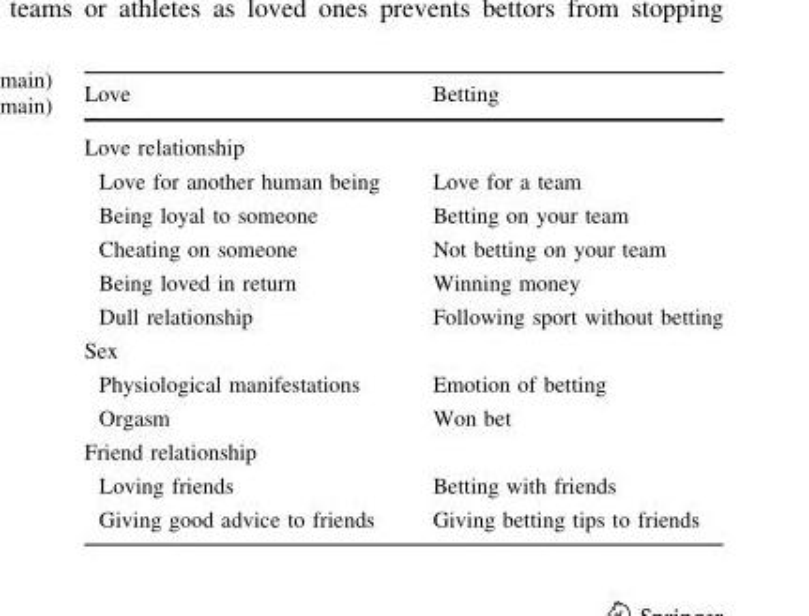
<table><thead><tr><td>Love</td><td>Betting</td></tr></thead><tbody><tr><td colspan="2">Love relationship</td></tr><tr><td>Love for another human being</td><td>Love for a team</td></tr><tr><td>Being loyal to someone</td><td>Betting on your team</td></tr><tr><td>Cheating on someone</td><td>Not betting on your team</td></tr><tr><td>Being loved in return</td><td>Winning money</td></tr><tr><td>Dull relationship</td><td>Following sport without betting</td></tr><tr><td colspan="2">Sex</td></tr><tr><td>Physiological manifestations</td><td>Emotion of betting</td></tr><tr><td>Orgasm</td><td>Won bet</td></tr><tr><td colspan="2">Friend relationship</td></tr><tr><td>Loving friends</td><td>Betting with friends</td></tr><tr><td>Giving good advice to friends</td><td>Giving betting tips to friends</td></tr></tbody></table>